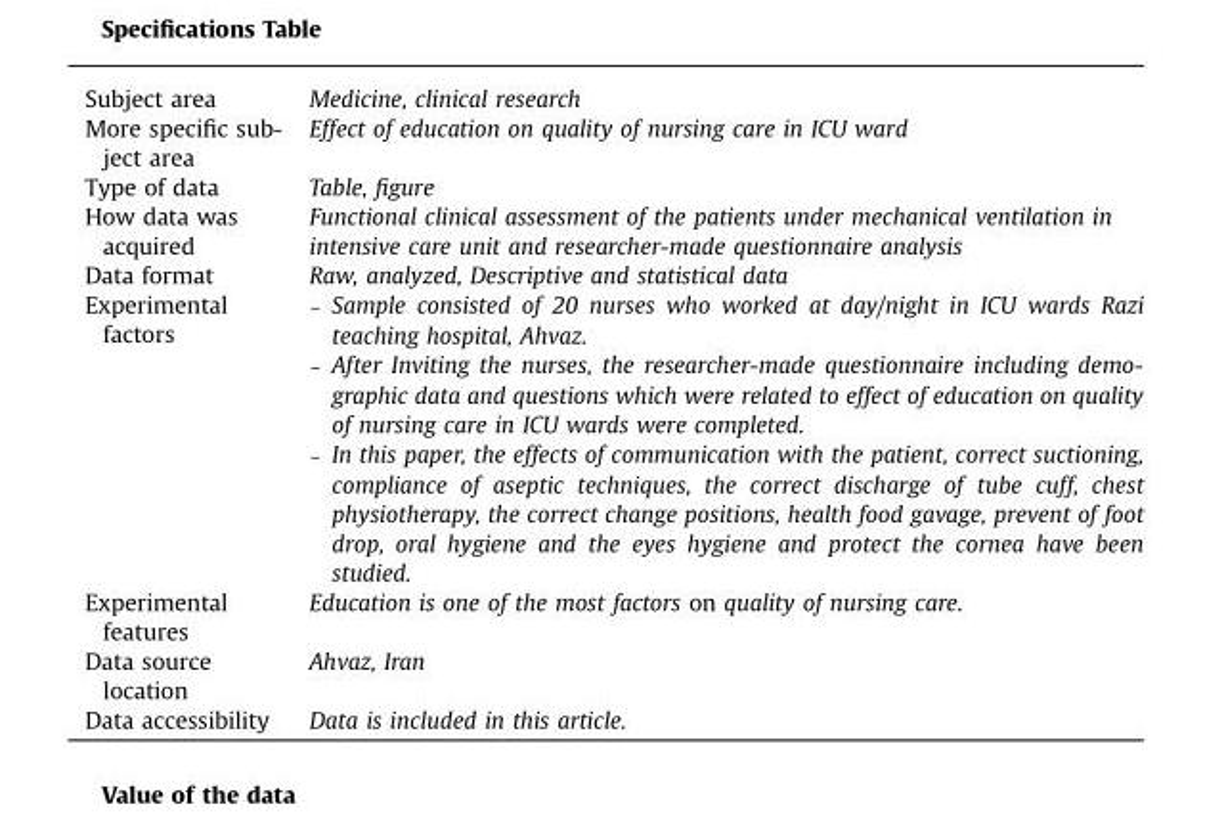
<table><tbody><tr><td>Subject area</td><td>Medicine, clinical research</td></tr><tr><td>More specific sub- ject area</td><td>Effect of education on quality of nursing care in ICU ward</td></tr><tr><td>Type of data</td><td>Table, figure</td></tr><tr><td>How data was acquired</td><td>Functional clinical assessment of the patients under mechanical ventilation in intensive care unit and researcher-made questionnaire analysis</td></tr><tr><td>Data format</td><td>Raw, analyzed, Descriptive and statistical data</td></tr><tr><td>Experimental factors</td><td>– Sample consisted of 20 nurses who worked at day/night in ICU wards Razi teaching hospital, Ahvaz. – After Inviting the nurses, the researcher-made questionnaire including demo- graphic data and questions which were related to effect of education on quality of nursing care in ICU wards were completed. – In this paper, the effects of communication with the patient, correct suctioning, compliance of aseptic techniques, the correct discharge of tube cuff, chest physiotherapy, the correct change positions, health food gavage, prevent of foot drop, oral hygiene and the eyes hygiene and protect the cornea have been studied.</td></tr><tr><td>Experimental features</td><td>Education is one of the most factors on quality of nursing care.</td></tr><tr><td>Data source location</td><td>Ahvaz, Iran</td></tr><tr><td>Data accessibility</td><td>Data is included in this article.</td></tr></tbody></table>